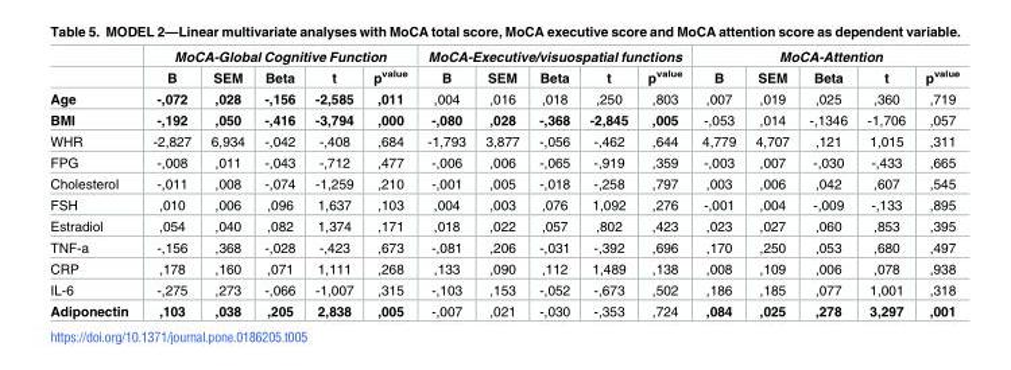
<table><thead><tr><td rowspan="2"></td><td colspan="5">MoCA-Global Cognitive Function</td><td colspan="5">MoCA-Executive/visuospatial functions</td><td colspan="5">MoCA-Attention</td></tr><tr><td>B</td><td>SEM</td><td>Beta</td><td>t</td><td>p<sup>value</sup></td><td>B</td><td>SEM</td><td>Beta</td><td>t</td><td>p<sup>value</sup></td><td>B</td><td>SEM</td><td>Beta</td><td>t</td><td>p<sup>value</sup></td></tr></thead><tbody><tr><td>Age</td><td>-,072</td><td>,028</td><td>-,156</td><td>-2,585</td><td>,011</td><td>,004</td><td>,016</td><td>,018</td><td>,250</td><td>,803</td><td>,007</td><td>,019</td><td>,025</td><td>,360</td><td>,719</td></tr><tr><td>BMI</td><td>-,192</td><td>,050</td><td>-,416</td><td>-3,794</td><td>,000</td><td>-,080</td><td>,028</td><td>-,368</td><td>-2,845</td><td>,005</td><td>-,053</td><td>,014</td><td>-,1346</td><td>-1,706</td><td>,057</td></tr><tr><td>WHR</td><td>-2,827</td><td>6,934</td><td>-,042</td><td>-,408</td><td>,684</td><td>-1,793</td><td>3,877</td><td>-,056</td><td>-,462</td><td>,644</td><td>4,779</td><td>4,707</td><td>,121</td><td>1,015</td><td>,311</td></tr><tr><td>FPG</td><td>-,008</td><td>,011</td><td>-,043</td><td>-,712</td><td>,477</td><td>-,006</td><td>,006</td><td>-,065</td><td>-,919</td><td>,359</td><td>-,003</td><td>,007</td><td>-,030</td><td>-,433</td><td>,665</td></tr><tr><td>Cholesterol</td><td>-,011</td><td>,008</td><td>-,074</td><td>-1,259</td><td>,210</td><td>-,001</td><td>,005</td><td>-,018</td><td>-,258</td><td>,797</td><td>,003</td><td>,006</td><td>,042</td><td>,607</td><td>,545</td></tr><tr><td>FSH</td><td>,010</td><td>,006</td><td>,096</td><td>1,637</td><td>,103</td><td>,004</td><td>,003</td><td>,076</td><td>1,092</td><td>,276</td><td>-,001</td><td>,004</td><td>-,009</td><td>-,133</td><td>,895</td></tr><tr><td>Estradiol</td><td>,054</td><td>,040</td><td>,082</td><td>1,374</td><td>,171</td><td>,018</td><td>,022</td><td>,057</td><td>,802</td><td>,423</td><td>,023</td><td>,027</td><td>,060</td><td>,853</td><td>,395</td></tr><tr><td>TNF-a</td><td>-,156</td><td>,368</td><td>-,028</td><td>-,423</td><td>,673</td><td>-,081</td><td>,206</td><td>-,031</td><td>-,392</td><td>,696</td><td>,170</td><td>,250</td><td>,053</td><td>,680</td><td>,497</td></tr><tr><td>CRP</td><td>,178</td><td>,160</td><td>,071</td><td>1,111</td><td>,268</td><td>,133</td><td>,090</td><td>,112</td><td>1,489</td><td>,138</td><td>,008</td><td>,109</td><td>,006</td><td>,078</td><td>,938</td></tr><tr><td>IL-6</td><td>-,275</td><td>,273</td><td>-,066</td><td>-1,007</td><td>,315</td><td>-,103</td><td>,153</td><td>-,052</td><td>-,673</td><td>,502</td><td>,186</td><td>,185</td><td>,077</td><td>1,001</td><td>,318</td></tr><tr><td>Adiponectin</td><td>,103</td><td>,038</td><td>,205</td><td>2,838</td><td>,005</td><td>-,007</td><td>,021</td><td>-,030</td><td>-,353</td><td>,724</td><td>,084</td><td>,025</td><td>,278</td><td>3,297</td><td>,001</td></tr></tbody></table>